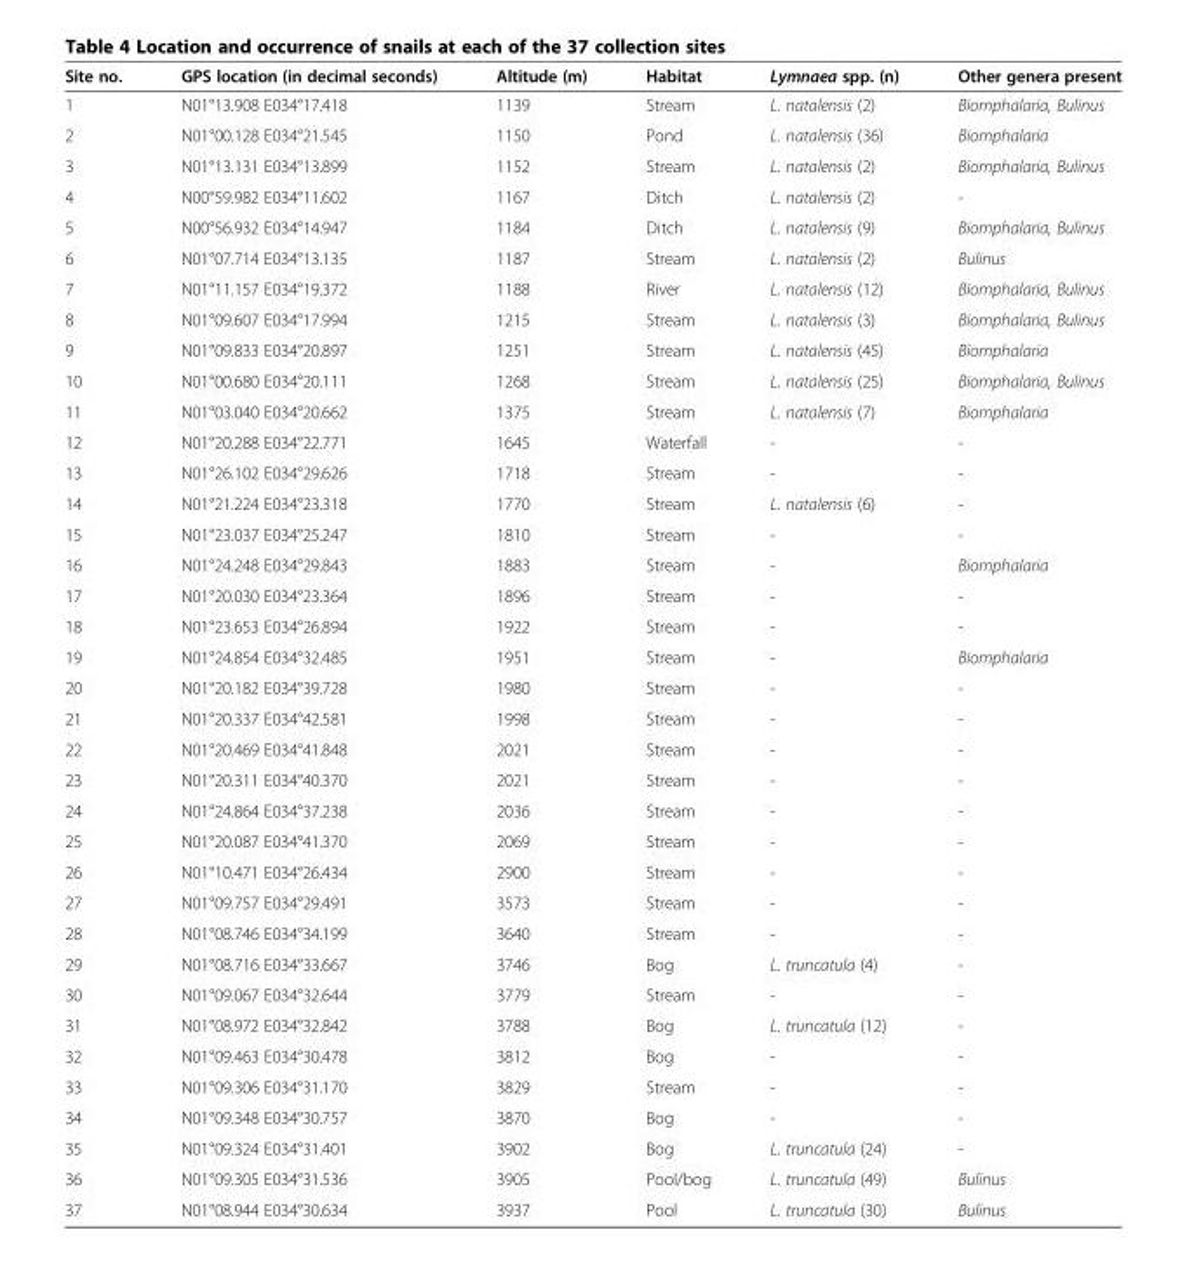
<table><thead><tr><td>Site no.</td><td>GPS location (in decimal seconds)</td><td>Altitude (m)</td><td>Habitat</td><td>Lymnaea spp. (n)</td><td>Other genera present</td></tr></thead><tbody><tr><td>1</td><td>N01°13.908 E034°17.418</td><td>1139</td><td>Stream</td><td>L. natalensis (2)</td><td>Biomphalaria, Bulinus</td></tr><tr><td>2</td><td>N01°00.128 E034°21.545</td><td>1150</td><td>Pond</td><td>L. natalensis (36)</td><td>Biomphalaria</td></tr><tr><td>3</td><td>N01°13.131 E034°13.899</td><td>1152</td><td>Stream</td><td>L. natalensis (2)</td><td>Biomphalaria, Bulinus</td></tr><tr><td>4</td><td>N00°59.982 E034°11.602</td><td>1167</td><td>Ditch</td><td>L. natalensis (2)</td><td>-</td></tr><tr><td>5</td><td>N00°56.932 E034°14.947</td><td>1184</td><td>Ditch</td><td>L. natalensis (9)</td><td>Biomphalaria, Bulinus</td></tr><tr><td>6</td><td>N01°07.714 E034°13.135</td><td>1187</td><td>Stream</td><td>L. natalensis (2)</td><td>Bulinus</td></tr><tr><td>7</td><td>N01°11.157 E034°19.372</td><td>1188</td><td>River</td><td>L. natalensis (12)</td><td>Biomphalaria, Bulinus</td></tr><tr><td>8</td><td>N01°09.607 E034°17.994</td><td>1215</td><td>Stream</td><td>L. natalensis (3)</td><td>Biomphalaria, Bulinus</td></tr><tr><td>9</td><td>N01°09.833 E034°20.897</td><td>1251</td><td>Stream</td><td>L. natalensis (45)</td><td>Biomphalaria</td></tr><tr><td>10</td><td>N01°00.680 E034°20.111</td><td>1268</td><td>Stream</td><td>L. natalensis (25)</td><td>Biomphalaria, Bulinus</td></tr><tr><td>11</td><td>N01°03.040 E034°20.662</td><td>1375</td><td>Stream</td><td>L. natalensis (7)</td><td>Biomphalaria</td></tr><tr><td>12</td><td>N01°20.288 E034°22.771</td><td>1645</td><td>Waterfall</td><td>-</td><td>-</td></tr><tr><td>13</td><td>N01°26.102 E034°29.626</td><td>1718</td><td>Stream</td><td>-</td><td>-</td></tr><tr><td>14</td><td>N01°21.224 E034°23.318</td><td>1770</td><td>Stream</td><td>L. natalensis (6)</td><td>-</td></tr><tr><td>15</td><td>N01°23.037 E034°25.247</td><td>1810</td><td>Stream</td><td>-</td><td>-</td></tr><tr><td>16</td><td>N01°24.248 E034°29.843</td><td>1883</td><td>Stream</td><td>-</td><td>Biomphalaria</td></tr><tr><td>17</td><td>N01°20.030 E034°23.364</td><td>1896</td><td>Stream</td><td>-</td><td>-</td></tr><tr><td>18</td><td>N01°23.653 E034°26.894</td><td>1922</td><td>Stream</td><td>-</td><td>-</td></tr><tr><td>19</td><td>N01°24.854 E034°32.485</td><td>1951</td><td>Stream</td><td>-</td><td>Biomphalaria</td></tr><tr><td>20</td><td>N01°20.182 E034°39.728</td><td>1980</td><td>Stream</td><td>-</td><td>-</td></tr><tr><td>21</td><td>N01°20.337 E034°42.581</td><td>1998</td><td>Stream</td><td>-</td><td>-</td></tr><tr><td>22</td><td>N01°20.469 E034°41.848</td><td>2021</td><td>Stream</td><td>-</td><td>-</td></tr><tr><td>23</td><td>N01°20.311 E034°40.370</td><td>2021</td><td>Stream</td><td>-</td><td>-</td></tr><tr><td>24</td><td>N01°24.864 E034°37.238</td><td>2036</td><td>Stream</td><td>-</td><td>-</td></tr><tr><td>25</td><td>N01°20.087 E034°41.370</td><td>2069</td><td>Stream</td><td>-</td><td>-</td></tr><tr><td>26</td><td>N01°10.471 E034°26.434</td><td>2900</td><td>Stream</td><td>-</td><td>-</td></tr><tr><td>27</td><td>N01°09.757 E034°29.491</td><td>3573</td><td>Stream</td><td>-</td><td>-</td></tr><tr><td>28</td><td>N01°08.746 E034°34.199</td><td>3640</td><td>Stream</td><td>-</td><td>-</td></tr><tr><td>29</td><td>N01°08.716 E034°33.667</td><td>3746</td><td>Bog</td><td>L. truncatula (4)</td><td>-</td></tr><tr><td>30</td><td>N01°09.067 E034°32.644</td><td>3779</td><td>Stream</td><td>-</td><td>-</td></tr><tr><td>31</td><td>N01°08.972 E034°32.842</td><td>3788</td><td>Bog</td><td>L. truncatula (12)</td><td>-</td></tr><tr><td>32</td><td>N01°09.463 E034°30.478</td><td>3812</td><td>Bog</td><td>-</td><td>-</td></tr><tr><td>33</td><td>N01°09.306 E034°31.170</td><td>3829</td><td>Stream</td><td>-</td><td>-</td></tr><tr><td>34</td><td>N01°09.348 E034°30.757</td><td>3870</td><td>Bog</td><td>-</td><td>-</td></tr><tr><td>35</td><td>N01°09.324 E034°31.401</td><td>3902</td><td>Bog</td><td>L. truncatula (24)</td><td>-</td></tr><tr><td>36</td><td>N01°09.305 E034°31.536</td><td>3905</td><td>Pool/bog</td><td>L. truncatula (49)</td><td>Bulinus</td></tr><tr><td>37</td><td>N01°08.944 E034°30.634</td><td>3937</td><td>Pool</td><td>L. truncatula (30)</td><td>Bulinus</td></tr></tbody></table>